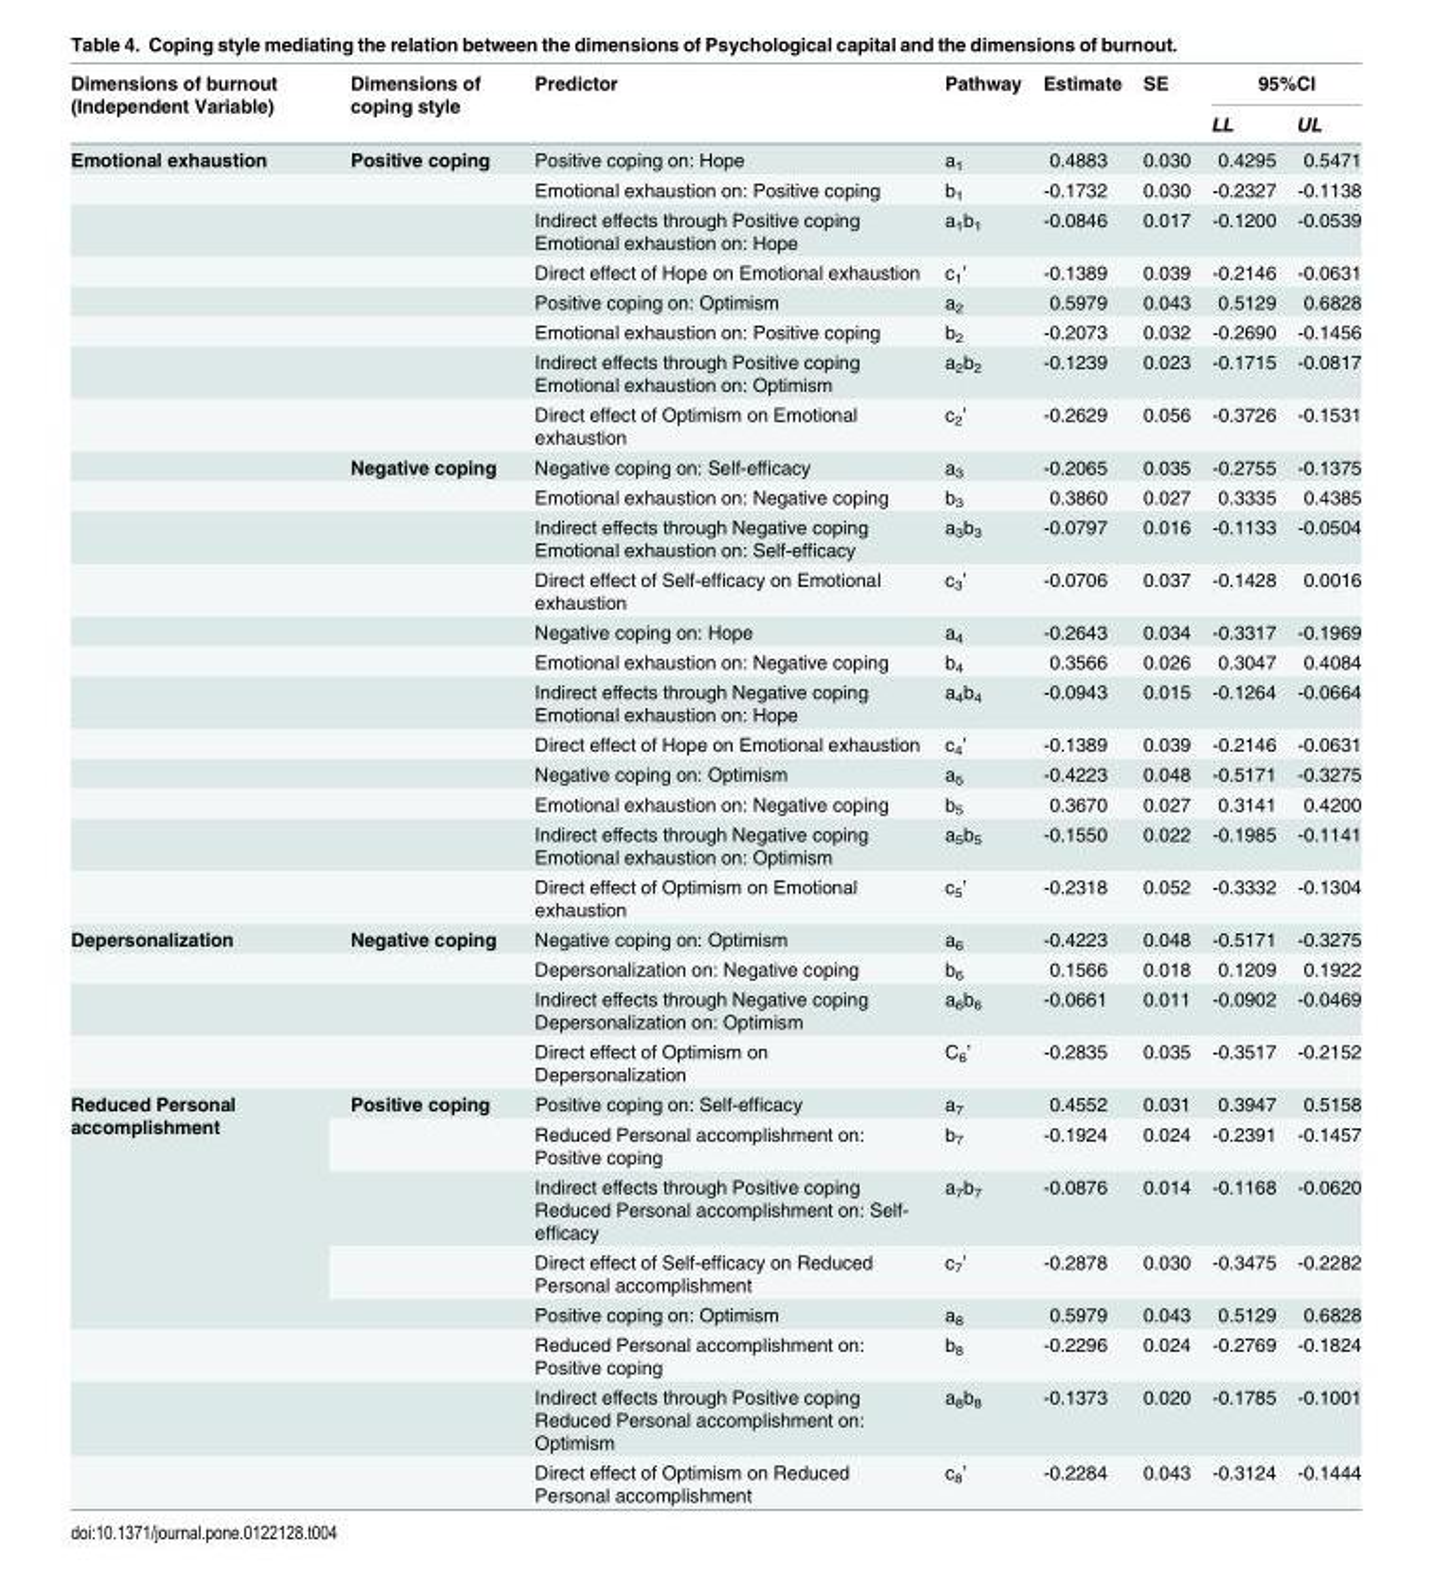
<table><thead><tr><td rowspan="2">Dimensions of burnout (Independent Variable)</td><td rowspan="2">Dimensions of coping style</td><td rowspan="2">Predictor</td><td rowspan="2">Pathway</td><td rowspan="2">Estimate</td><td rowspan="2">SE</td><td colspan="2">95%CI</td></tr><tr><td>LL</td><td>UL</td></tr></thead><tbody><tr><td rowspan="20">Emotional exhaustion</td><td>Positive coping</td><td>Positive coping on: Hope</td><td>a<sub>1</sub></td><td>0.4883</td><td>0.030</td><td>0.4295</td><td>0.5471</td></tr><tr><td></td><td>Emotional exhaustion on: Positive coping</td><td>b<sub>1</sub></td><td>-0.1732</td><td>0.030</td><td>-0.2327</td><td>-0.1138</td></tr><tr><td></td><td>Indirect effects through Positive coping Emotional exhaustion on: Hope</td><td>a<sub>1</sub>b<sub>1</sub></td><td>-0.0846</td><td>0.017</td><td>-0.1200</td><td>-0.0539</td></tr><tr><td></td><td>Direct effect of Hope on Emotional exhaustion</td><td>c<sub>1</sub>’</td><td>-0.1389</td><td>0.039</td><td>-0.2146</td><td>-0.0631</td></tr><tr><td></td><td>Positive coping on: Optimism</td><td>a<sub>2</sub></td><td>0.5979</td><td>0.043</td><td>0.5129</td><td>0.6828</td></tr><tr><td></td><td>Emotional exhaustion on: Positive coping</td><td>b<sub>2</sub></td><td>-0.2073</td><td>0.032</td><td>-0.2690</td><td>-0.1456</td></tr><tr><td></td><td>Indirect effects through Positive coping Emotional exhaustion on: Optimism</td><td>a<sub>2</sub>b<sub>2</sub></td><td>-0.1239</td><td>0.023</td><td>-0.1715</td><td>-0.0817</td></tr><tr><td></td><td>Direct effect of Optimism on Emotional exhaustion</td><td>c<sub>2</sub>’</td><td>-0.2629</td><td>0.056</td><td>-0.3726</td><td>-0.1531</td></tr><tr><td>Negative coping</td><td>Negative coping on: Self-efficacy</td><td>a<sub>3</sub></td><td>-0.2065</td><td>0.035</td><td>-0.2755</td><td>-0.1375</td></tr><tr><td></td><td>Emotional exhaustion on: Negative coping</td><td>b<sub>3</sub></td><td>0.3860</td><td>0.027</td><td>0.3335</td><td>0.4385</td></tr><tr><td></td><td>Indirect effects through Negative coping Emotional exhaustion on: Self-efficacy</td><td>a<sub>3</sub>b<sub>3</sub></td><td>-0.0797</td><td>0.016</td><td>-0.1133</td><td>-0.0504</td></tr><tr><td></td><td>Direct effect of Self-efficacy on Emotional exhaustion</td><td>c<sub>3</sub>’</td><td>-0.0706</td><td>0.037</td><td>-0.1428</td><td>0.0016</td></tr><tr><td></td><td>Negative coping on: Hope</td><td>a<sub>4</sub></td><td>-0.2643</td><td>0.034</td><td>-0.3317</td><td>-0.1969</td></tr><tr><td></td><td>Emotional exhaustion on: Negative coping</td><td>b<sub>4</sub></td><td>0.3566</td><td>0.026</td><td>0.3047</td><td>0.4084</td></tr><tr><td></td><td>Indirect effects through Negative coping Emotional exhaustion on: Hope</td><td>a<sub>4</sub>b<sub>4</sub></td><td>-0.0943</td><td>0.015</td><td>-0.1264</td><td>-0.0664</td></tr><tr><td></td><td>Direct effect of Hope on Emotional exhaustion</td><td>c<sub>4</sub>’</td><td>-0.1389</td><td>0.039</td><td>-0.2146</td><td>-0.0631</td></tr><tr><td></td><td>Negative coping on: Optimism</td><td>a<sub>5</sub></td><td>-0.4223</td><td>0.048</td><td>-0.5171</td><td>-0.3275</td></tr><tr><td></td><td>Emotional exhaustion on: Negative coping</td><td>b<sub>5</sub></td><td>0.3670</td><td>0.027</td><td>0.3141</td><td>0.4200</td></tr><tr><td></td><td>Indirect effects through Negative coping Emotional exhaustion on: Optimism</td><td>a<sub>5</sub>b<sub>5</sub></td><td>-0.1550</td><td>0.022</td><td>-0.1985</td><td>-0.1141</td></tr><tr><td></td><td>Direct effect of Optimism on Emotional exhaustion</td><td>c<sub>5</sub>’</td><td>-0.2318</td><td>0.052</td><td>-0.3332</td><td>-0.1304</td></tr><tr><td rowspan="4">Depersonalization</td><td>Negative coping</td><td>Negative coping on: Optimism</td><td>a<sub>6</sub></td><td>-0.4223</td><td>0.048</td><td>-0.5171</td><td>-0.3275</td></tr><tr><td></td><td>Depersonalization on: Negative coping</td><td>b<sub>6</sub></td><td>0.1566</td><td>0.018</td><td>0.1209</td><td>0.1922</td></tr><tr><td></td><td>Indirect effects through Negative coping Depersonalization on: Optimism</td><td>a<sub>6</sub>b<sub>6</sub></td><td>-0.0661</td><td>0.011</td><td>-0.0902</td><td>-0.0469</td></tr><tr><td></td><td>Direct effect of Optimism on Depersonalization</td><td>C<sub>6</sub>’</td><td>-0.2835</td><td>0.035</td><td>-0.3517</td><td>-0.2152</td></tr><tr><td rowspan="8">Reduced Personal accomplishment</td><td>Positive coping</td><td>Positive coping on: Self-efficacy</td><td>a<sub>7</sub></td><td>0.4552</td><td>0.031</td><td>0.3947</td><td>0.5158</td></tr><tr><td></td><td>Reduced Personal accomplishment on: Positive coping</td><td>b<sub>7</sub></td><td>-0.1924</td><td>0.024</td><td>-0.2391</td><td>-0.1457</td></tr><tr><td></td><td>Indirect effects through Positive coping Reduced Personal accomplishment on: Self- efficacy</td><td>a<sub>7</sub>b<sub>7</sub></td><td>-0.0876</td><td>0.014</td><td>-0.1168</td><td>-0.0620</td></tr><tr><td></td><td>Direct effect of Self-efficacy on Reduced Personal accomplishment</td><td>c<sub>7</sub>’</td><td>-0.2878</td><td>0.030</td><td>-0.3475</td><td>-0.2282</td></tr><tr><td></td><td>Positive coping on: Optimism</td><td>a<sub>8</sub></td><td>0.5979</td><td>0.043</td><td>0.5129</td><td>0.6828</td></tr><tr><td></td><td>Reduced Personal accomplishment on: Positive coping</td><td>b<sub>8</sub></td><td>-0.2296</td><td>0.024</td><td>-0.2769</td><td>-0.1824</td></tr><tr><td></td><td>Indirect effects through Positive coping Reduced Personal accomplishment on: Optimism</td><td>a<sub>8</sub>b<sub>8</sub></td><td>-0.1373</td><td>0.020</td><td>-0.1785</td><td>-0.1001</td></tr><tr><td></td><td>Direct effect of Optimism on Reduced Personal accomplishment</td><td>c<sub>8</sub>’</td><td>-0.2284</td><td>0.043</td><td>-0.3124</td><td>-0.1444</td></tr></tbody></table>